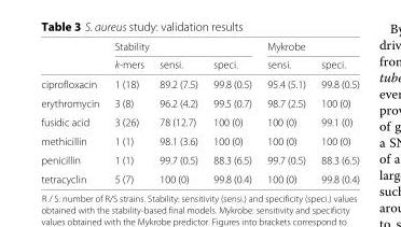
<table><thead><tr><td rowspan="2"></td><td colspan="3">Stability</td><td colspan="2">Mykrobe</td></tr><tr><td>k-mers</td><td>sensi.</td><td>speci.</td><td>sensi.</td><td>speci.</td></tr></thead><tbody><tr><td>ciprofloxacin</td><td>1 (18)</td><td>89.2 (7.5)</td><td>99.8 (0.5)</td><td>95.4 (5.1)</td><td>99.8 (0.5)</td></tr><tr><td>erythromycin</td><td>3 (8)</td><td>96.2 (4.2)</td><td>99.5 (0.7)</td><td>98.7 (2.5)</td><td>100 (0)</td></tr><tr><td>fusidic acid</td><td>3 (26)</td><td>78 (12.7)</td><td>100 (0)</td><td>100 (0)</td><td>99.1 (0)</td></tr><tr><td>methicillin</td><td>1 (1)</td><td>98.1 (3.6)</td><td>100 (0)</td><td>100 (0)</td><td>100 (0)</td></tr><tr><td>penicillin</td><td>1 (1)</td><td>99.7 (0.5)</td><td>88.3 (6.5)</td><td>99.7 (0.5)</td><td>88.3 (6.5)</td></tr><tr><td>tetracyclin</td><td>5 (7)</td><td>100 (0)</td><td>99.8 (0.4)</td><td>100 (0)</td><td>99.8 (0.4)</td></tr></tbody></table>